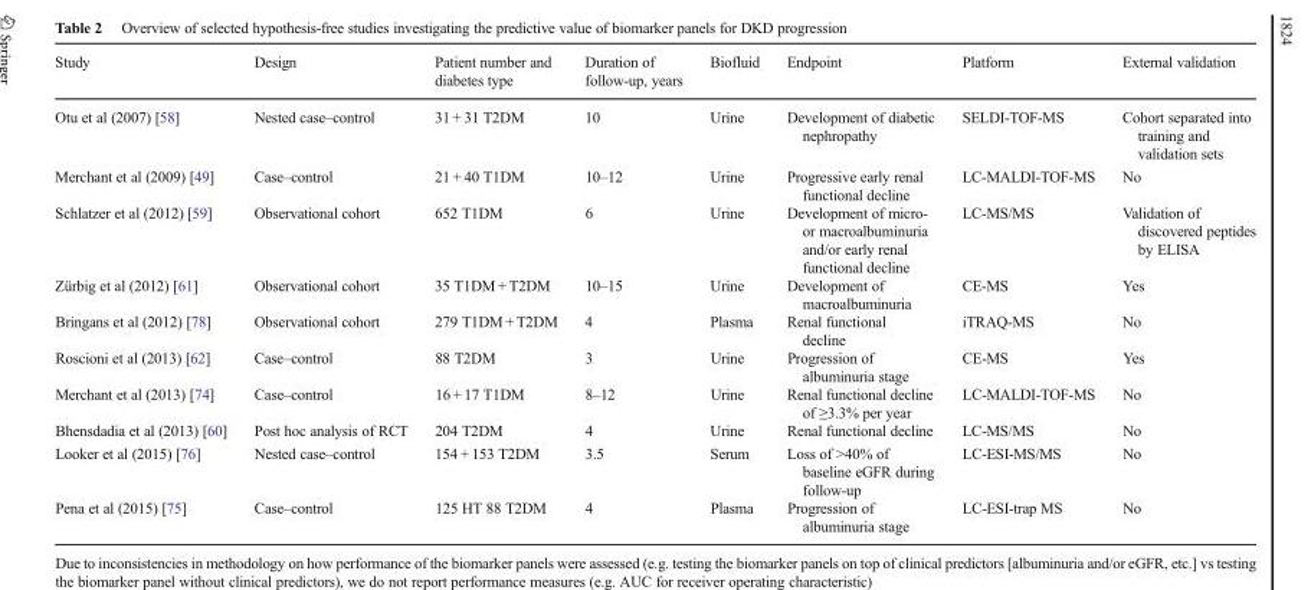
<table><thead><tr><td>Study</td><td>Design</td><td>Patient number and diabetes type</td><td>Duration of follow-up, years</td><td>Biofluid</td><td>Endpoint</td><td>Platform</td><td>External validation</td></tr></thead><tbody><tr><td>Otu et al (2007) [58]</td><td>Nested case–control</td><td>31 + 31 T2DM</td><td>10</td><td>Urine</td><td>Development of diabetic nephropathy</td><td>SELDI-TOF-MS</td><td>Cohort separated into training and validation sets</td></tr><tr><td>Merchant et al (2009) [49]</td><td>Case–control</td><td>21 + 40 T1DM</td><td>10–12</td><td>Urine</td><td>Progressive early renal functional decline</td><td>LC-MALDI-TOF-MS</td><td>No</td></tr><tr><td>Schlatzer et al (2012) [59]</td><td>Observational cohort</td><td>652 T1DM</td><td>6</td><td>Urine</td><td>Development of micro- or macroalbuminuria and/or early renal functional decline</td><td>LC-MS/MS</td><td>Validation of discovered peptides by ELISA</td></tr><tr><td>Zürbig et al (2012) [61]</td><td>Observational cohort</td><td>35 T1DM + T2DM</td><td>10–15</td><td>Urine</td><td>Development of macroalbuminuria</td><td>CE-MS</td><td>Yes</td></tr><tr><td>Bringans et al (2012) [78]</td><td>Observational cohort</td><td>279 T1DM + T2DM</td><td>4</td><td>Plasma</td><td>Renal functional decline</td><td>iTRAQ-MS</td><td>No</td></tr><tr><td>Roscioni et al (2013) [62]</td><td>Case–control</td><td>88 T2DM</td><td>3</td><td>Urine</td><td>Progression of albuminuria stage</td><td>CE-MS</td><td>Yes</td></tr><tr><td>Merchant et al (2013) [74]</td><td>Case–control</td><td>16 + 17 T1DM</td><td>8–12</td><td>Urine</td><td>Renal functional decline of ≥3.3% per year</td><td>LC-MALDI-TOF-MS</td><td>No</td></tr><tr><td>Bhensdadia et al (2013) [60]</td><td>Post hoc analysis of RCT</td><td>204 T2DM</td><td>4</td><td>Urine</td><td>Renal functional decline</td><td>LC-MS/MS</td><td>No</td></tr><tr><td>Looker et al (2015) [76]</td><td>Nested case–control</td><td>154 + 153 T2DM</td><td>3.5</td><td>Serum</td><td>Loss of &gt;40% of baseline eGFR during follow-up</td><td>LC-ESI-MS/MS</td><td>No</td></tr><tr><td>Pena et al (2015) [75]</td><td>Case–control</td><td>125 HT 88 T2DM</td><td>4</td><td>Plasma</td><td>Progression of albuminuria stage</td><td>LC-ESI-trap MS</td><td>No</td></tr></tbody></table>